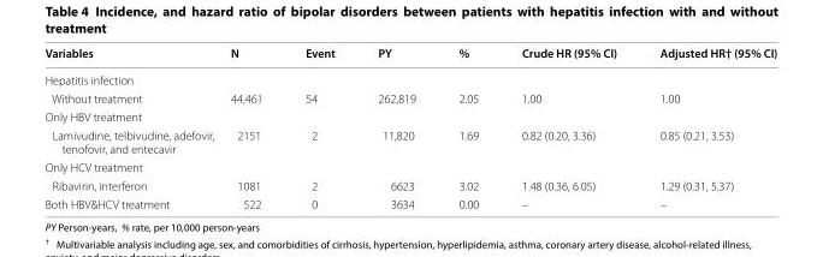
<table><thead><tr><td>Variables</td><td>N</td><td>Event</td><td>PY</td><td>%</td><td>Crude HR (95% CI)</td><td>Adjusted HR† (95% CI)</td></tr></thead><tbody><tr><td colspan="7">Hepatitis infection</td></tr><tr><td>Without treatment</td><td>44,461</td><td>54</td><td>262,819</td><td>2.05</td><td>1.00</td><td>1.00</td></tr><tr><td colspan="7">Only HBV treatment</td></tr><tr><td>Lamivudine, telbivudine, adefovir, tenofovir, and entecavir</td><td>2151</td><td>2</td><td>11,820</td><td>1.69</td><td>0.82 (0.20, 3.36)</td><td>0.85 (0.21, 3.53)</td></tr><tr><td colspan="7">Only HCV treatment</td></tr><tr><td>Ribavirin, interferon</td><td>1081</td><td>2</td><td>6623</td><td>3.02</td><td>1.48 (0.36, 6.05)</td><td>1.29 (0.31, 5.37)</td></tr><tr><td>Both HBV&amp;HCV treatment</td><td>522</td><td>0</td><td>3634</td><td>0.00</td><td>–</td><td>–</td></tr></tbody></table>